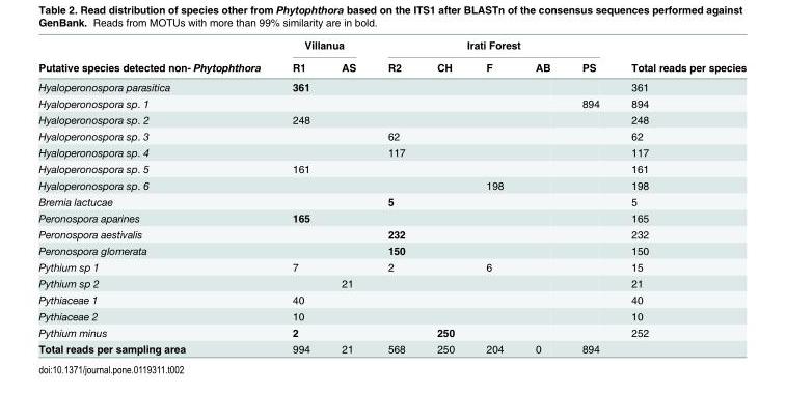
<table><thead><tr><td rowspan="2">Putative species detected non- Phytophthora</td><td colspan="2">Villanua</td><td colspan="5">Irati Forest</td><td rowspan="2">Total reads per species</td></tr><tr><td>R1</td><td>AS</td><td>R2</td><td>CH</td><td>F</td><td>AB</td><td>PS</td></tr></thead><tbody><tr><td>Hyaloperonospora parasitica</td><td>361</td><td></td><td></td><td></td><td></td><td></td><td></td><td>361</td></tr><tr><td>Hyaloperonospora sp. 1</td><td></td><td></td><td></td><td></td><td></td><td></td><td>894</td><td>894</td></tr><tr><td>Hyaloperonospora sp. 2</td><td>248</td><td></td><td></td><td></td><td></td><td></td><td></td><td>248</td></tr><tr><td>Hyaloperonospora sp. 3</td><td></td><td></td><td>62</td><td></td><td></td><td></td><td></td><td>62</td></tr><tr><td>Hyaloperonospora sp. 4</td><td></td><td></td><td>117</td><td></td><td></td><td></td><td></td><td>117</td></tr><tr><td>Hyaloperonospora sp. 5</td><td>161</td><td></td><td></td><td></td><td></td><td></td><td></td><td>161</td></tr><tr><td>Hyaloperonospora sp. 6</td><td></td><td></td><td></td><td></td><td>198</td><td></td><td></td><td>198</td></tr><tr><td>Bremia lactucae</td><td></td><td></td><td>5</td><td></td><td></td><td></td><td></td><td>5</td></tr><tr><td>Peronospora aparines</td><td>165</td><td></td><td></td><td></td><td></td><td></td><td></td><td>165</td></tr><tr><td>Peronospora aestivalis</td><td></td><td></td><td>232</td><td></td><td></td><td></td><td></td><td>232</td></tr><tr><td>Peronospora glomerata</td><td></td><td></td><td>150</td><td></td><td></td><td></td><td></td><td>150</td></tr><tr><td>Pythium sp 1</td><td>7</td><td></td><td>2</td><td></td><td>6</td><td></td><td></td><td>15</td></tr><tr><td>Pythium sp 2</td><td></td><td>21</td><td></td><td></td><td></td><td></td><td></td><td>21</td></tr><tr><td>Pythiaceae 1</td><td>40</td><td></td><td></td><td></td><td></td><td></td><td></td><td>40</td></tr><tr><td>Pythiaceae 2</td><td>10</td><td></td><td></td><td></td><td></td><td></td><td></td><td>10</td></tr><tr><td>Pythium minus</td><td>2</td><td></td><td></td><td>250</td><td></td><td></td><td></td><td>252</td></tr><tr><td>Total reads per sampling area</td><td>994</td><td>21</td><td>568</td><td>250</td><td>204</td><td>0</td><td>894</td><td></td></tr></tbody></table>